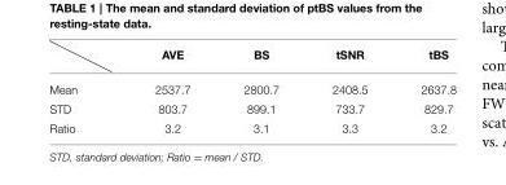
<table><thead><tr><td></td><td>AVE</td><td>BS</td><td>tSNR</td><td>tBS</td></tr></thead><tbody><tr><td>Mean</td><td>2537.7</td><td>2800.7</td><td>2408.5</td><td>2637.8</td></tr><tr><td>STD</td><td>803.7</td><td>899.1</td><td>733.7</td><td>829.7</td></tr><tr><td>Ratio</td><td>3.2</td><td>3.1</td><td>3.3</td><td>3.2</td></tr></tbody></table>